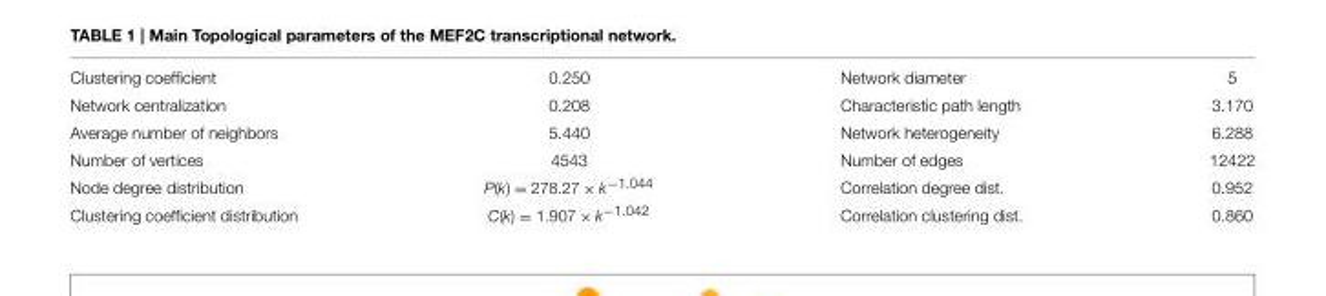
<table><tbody><tr><td>Clustering coefficient</td><td>0.250</td><td>Network diameter</td><td>5</td></tr><tr><td>Network centralization</td><td>0.208</td><td>Characteristic path length</td><td>3.170</td></tr><tr><td>Average number of neighbors</td><td>5.440</td><td>Network heterogeneity</td><td>6.288</td></tr><tr><td>Number of vertices</td><td>4543</td><td>Number of edges</td><td>12422</td></tr><tr><td>Node degree distribution</td><td>P(k) = 278.27 × k<sup>−1.044</sup></td><td>Correlation degree dist.</td><td>0.952</td></tr><tr><td>Clustering coefficient distribution</td><td>C(k) = 1.907 × k<sup>−1.042</sup></td><td>Correlation clustering dist.</td><td>0.860</td></tr></tbody></table>